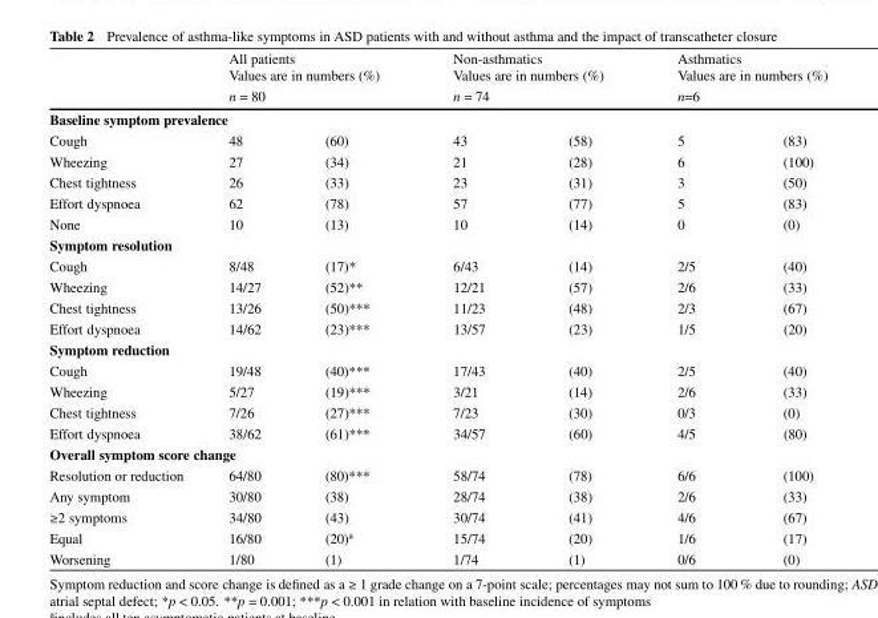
<table><thead><tr><td rowspan="2"></td><td rowspan="2" colspan="2">All patients Values are in numbers (%) n = 80</td><td rowspan="2" colspan="2">Non-asthmatics Values are in numbers (%) n = 74</td><td rowspan="2" colspan="2">Asthmatics Values are in numbers (%) n=6</td></tr><tr></tr><tr><td colspan="7">Baseline symptom prevalence</td></tr><tr><td>Cough</td><td>48</td><td>(60)</td><td>43</td><td>(58)</td><td>5</td><td>(83)</td></tr></thead><tbody><tr><td>Wheezing</td><td>27</td><td>(34)</td><td>21</td><td>(28)</td><td>6</td><td>(100)</td></tr><tr><td>Chest tightness</td><td>26</td><td>(33)</td><td>23</td><td>(31)</td><td>3</td><td>(50)</td></tr><tr><td>Effort dyspnoea</td><td>62</td><td>(78)</td><td>57</td><td>(77)</td><td>5</td><td>(83)</td></tr><tr><td>None</td><td>10</td><td>(13)</td><td>10</td><td>(14)</td><td>0</td><td>(0)</td></tr><tr><td colspan="7">Symptom resolution</td></tr><tr><td>Cough</td><td>8/48</td><td>(17)*</td><td>6/43</td><td>(14)</td><td>2/5</td><td>(40)</td></tr><tr><td>Wheezing</td><td>14/27</td><td>(52)**</td><td>12/21</td><td>(57)</td><td>2/6</td><td>(33)</td></tr><tr><td>Chest tightness</td><td>13/26</td><td>(50)***</td><td>11/23</td><td>(48)</td><td>2/3</td><td>(67)</td></tr><tr><td>Effort dyspnoea</td><td>14/62</td><td>(23)***</td><td>13/57</td><td>(23)</td><td>1/5</td><td>(20)</td></tr><tr><td colspan="7">Symptom reduction</td></tr><tr><td>Cough</td><td>19/48</td><td>(40)***</td><td>17/43</td><td>(40)</td><td>2/5</td><td>(40)</td></tr><tr><td>Wheezing</td><td>5/27</td><td>(19)***</td><td>3/21</td><td>(14)</td><td>2/6</td><td>(33)</td></tr><tr><td>Chest tightness</td><td>7/26</td><td>(27)***</td><td>7/23</td><td>(30)</td><td>0/3</td><td>(0)</td></tr><tr><td>Effort dyspnoea</td><td>38/62</td><td>(61)***</td><td>34/57</td><td>(60)</td><td>4/5</td><td>(80)</td></tr><tr><td colspan="7">Overall symptom score change</td></tr><tr><td>Resolution or reduction</td><td>64/80</td><td>(80)***</td><td>58/74</td><td>(78)</td><td>6/6</td><td>(100)</td></tr><tr><td>Any symptom</td><td>30/80</td><td>(38)</td><td>28/74</td><td>(38)</td><td>2/6</td><td>(33)</td></tr><tr><td>≥2 symptoms</td><td>34/80</td><td>(43)</td><td>30/74</td><td>(41)</td><td>4/6</td><td>(67)</td></tr><tr><td>Equal</td><td>16/80</td><td>(20)<sup>a</sup></td><td>15/74</td><td>(20)</td><td>1/6</td><td>(17)</td></tr><tr><td>Worsening</td><td>1/80</td><td>(1)</td><td>1/74</td><td>(1)</td><td>0/6</td><td>(0)</td></tr></tbody></table>